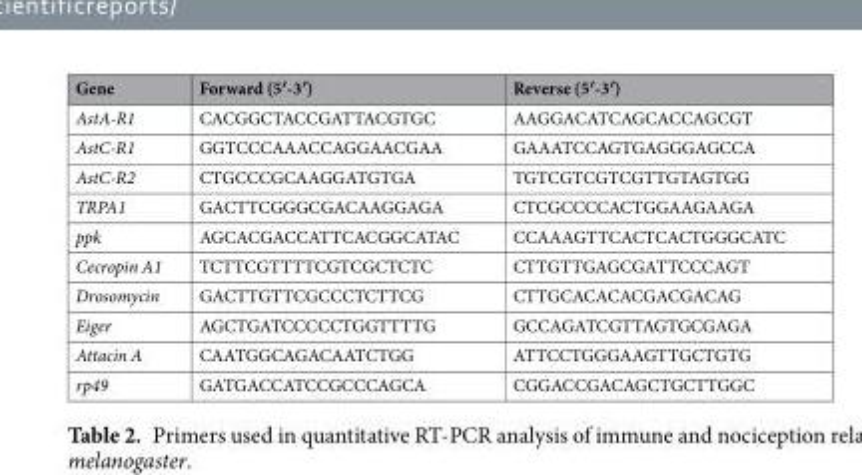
<table><thead><tr><td>Gene</td><td>Forward (5′-3′)</td><td>Reverse (5′-3′)</td></tr></thead><tbody><tr><td>AstA-R1</td><td>CACGGCTACCGATTACGTGC</td><td>AAGGACATCAGCACCAGCGT</td></tr><tr><td>AstC-R1</td><td>GGTCCCAAACCAGGAACGAA</td><td>GAAATCCAGTGAGGGAGCCA</td></tr><tr><td>AstC-R2</td><td>CTGCCCGCAAGGATGTGA</td><td>TGTCGTCGTCGTTGTAGTGG</td></tr><tr><td>TRPA1</td><td>GACTTCGGGCGACAAGGAGA</td><td>CTCGCCCCACTGGAAGAAGA</td></tr><tr><td>ppk</td><td>AGCACGACCATTCACGGCATAC</td><td>CCAAAGTTCACTCACTGGGCATC</td></tr><tr><td>Cecropin A1</td><td>TCTTCGTTTTCGTCGCTCTC</td><td>CTTGTTGAGCGATTCCCAGT</td></tr><tr><td>Drosomycin</td><td>GACTTGTTCGCCCTCTTCG</td><td>CTTGCACACACGACGACAG</td></tr><tr><td>Eiger</td><td>AGCTGATCCCCCTGGTTTTG</td><td>GCCAGATCGTTAGTGCGAGA</td></tr><tr><td>Attacin A</td><td>CAATGGCAGACAATCTGG</td><td>ATTCCTGGGAAGTTGCTGTG</td></tr><tr><td>rp49</td><td>GATGACCATCCGCCCAGCA</td><td>CGGACCGACAGCTGCTTGGC</td></tr></tbody></table>